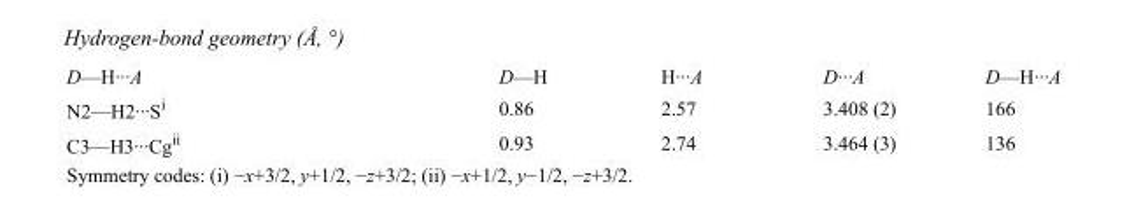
<table><tbody><tr><td>D—H···A</td><td>D—H</td><td>H···A</td><td>D···A</td><td>D—H···A</td></tr><tr><td>N2—H2···S<sup>i</sup></td><td>0.86</td><td>2.57</td><td>3.408 (2)</td><td>166</td></tr><tr><td>C3—H3···Cg<sup>ii</sup></td><td>0.93</td><td>2.74</td><td>3.464 (3)</td><td>136</td></tr></tbody></table>